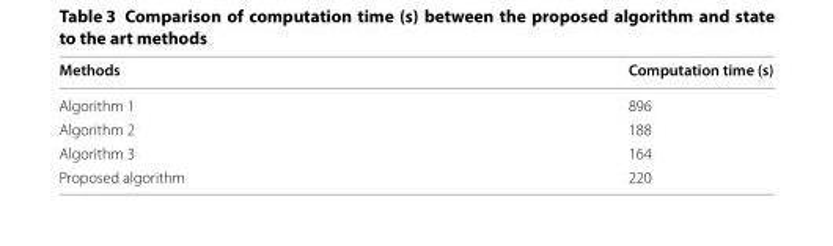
<table><thead><tr><td>Methods</td><td>Computation time (s)</td></tr></thead><tbody><tr><td>Algorithm 1</td><td>896</td></tr><tr><td>Algorithm 2</td><td>188</td></tr><tr><td>Algorithm 3</td><td>164</td></tr><tr><td>Proposed algorithm</td><td>220</td></tr></tbody></table>